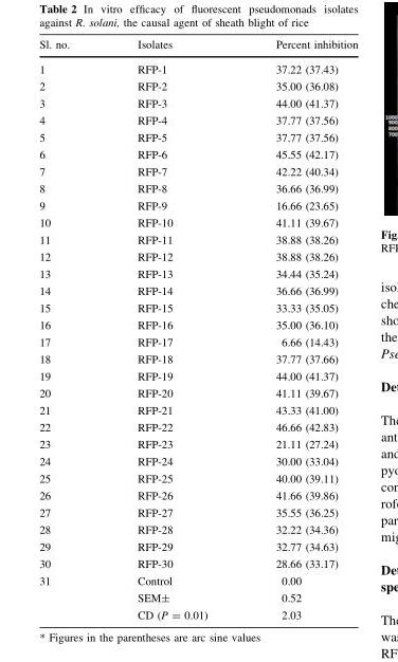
<table><thead><tr><td>Sl. no.</td><td>Isolates</td><td>Percent inhibition</td></tr></thead><tbody><tr><td>1</td><td>RFP-1</td><td>37.22 (37.43)</td></tr><tr><td>2</td><td>RFP-2</td><td>35.00 (36.08)</td></tr><tr><td>3</td><td>RFP-3</td><td>44.00 (41.37)</td></tr><tr><td>4</td><td>RFP-4</td><td>37.77 (37.56)</td></tr><tr><td>5</td><td>RFP-5</td><td>37.77 (37.56)</td></tr><tr><td>6</td><td>RFP-6</td><td>45.55 (42.17)</td></tr><tr><td>7</td><td>RFP-7</td><td>42.22 (40.34)</td></tr><tr><td>8</td><td>RFP-8</td><td>36.66 (36.99)</td></tr><tr><td>9</td><td>RFP-9</td><td>16.66 (23.65)</td></tr><tr><td>10</td><td>RFP-10</td><td>41.11 (39.67)</td></tr><tr><td>11</td><td>RFP-11</td><td>38.88 (38.26)</td></tr><tr><td>12</td><td>RFP-12</td><td>38.88 (38.26)</td></tr><tr><td>13</td><td>RFP-13</td><td>34.44 (35.24)</td></tr><tr><td>14</td><td>RFP-14</td><td>36.66 (36.99)</td></tr><tr><td>15</td><td>RFP-15</td><td>33.33 (35.05)</td></tr><tr><td>16</td><td>RFP-16</td><td>35.00 (36.10)</td></tr><tr><td>17</td><td>RFP-17</td><td>6.66 (14.43)</td></tr><tr><td>18</td><td>RFP-18</td><td>37.77 (37.66)</td></tr><tr><td>19</td><td>RFP-19</td><td>44.00 (41.37)</td></tr><tr><td>20</td><td>RFP-20</td><td>41.11 (39.67)</td></tr><tr><td>21</td><td>RFP-21</td><td>43.33 (41.00)</td></tr><tr><td>22</td><td>RFP-22</td><td>46.66 (42.83)</td></tr><tr><td>23</td><td>RFP-23</td><td>21.11 (27.24)</td></tr><tr><td>24</td><td>RFP-24</td><td>30.00 (33.04)</td></tr><tr><td>25</td><td>RFP-25</td><td>40.00 (39.11)</td></tr><tr><td>26</td><td>RFP-26</td><td>41.66 (39.86)</td></tr><tr><td>27</td><td>RFP-27</td><td>35.55 (36.25)</td></tr><tr><td>28</td><td>RFP-28</td><td>32.22 (34.36)</td></tr><tr><td>29</td><td>RFP-29</td><td>32.77 (34.63)</td></tr><tr><td>30</td><td>RFP-30</td><td>28.66 (33.17)</td></tr><tr><td rowspan="3">31</td><td>Control</td><td>0.00</td></tr><tr><td>SEM±</td><td>0.52</td></tr><tr><td>CD (P = 0.01)</td><td>2.03</td></tr></tbody></table>